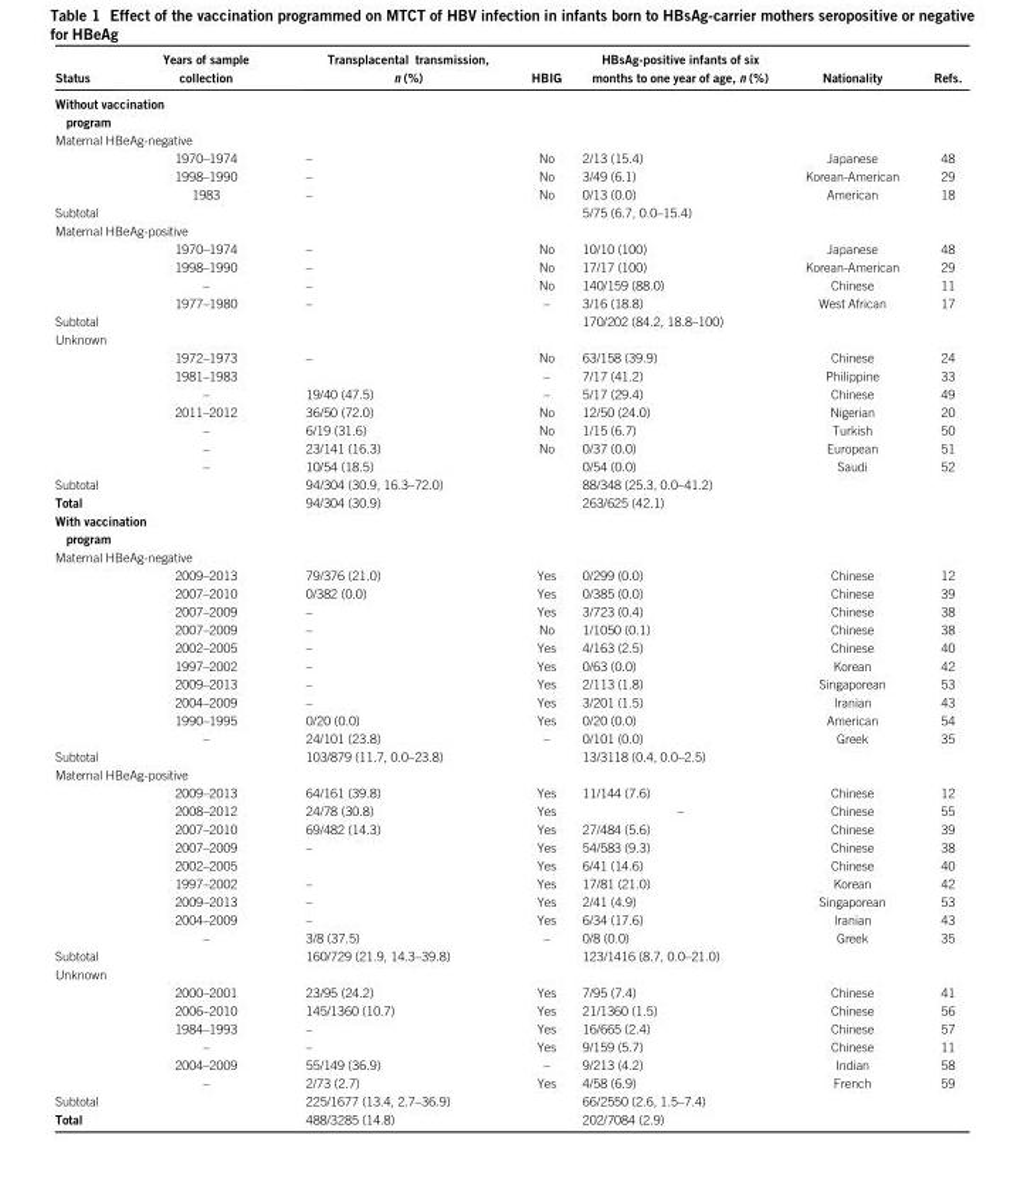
<table><tbody><tr><td>Status</td><td>Years of sample collection</td><td>Transplacental transmission, n (%)</td><td>HBIG</td><td>HBsAg-positive infants of six months to one year of age, n (%)</td><td>Nationality</td><td>Refs.</td></tr><tr><td colspan="7">Without vaccination program</td></tr><tr><td colspan="7">Maternal HBeAg-negative</td></tr><tr><td></td><td>1970–1974</td><td>–</td><td>No</td><td>2/13 (15.4)</td><td>Japanese</td><td><sup>48</sup></td></tr><tr><td></td><td>1998–1990</td><td>–</td><td>No</td><td>3/49 (6.1)</td><td>Korean-American</td><td><sup>29</sup></td></tr><tr><td></td><td>1983</td><td>–</td><td>No</td><td>0/13 (0.0)</td><td>American</td><td><sup>18</sup></td></tr><tr><td>Subtotal</td><td></td><td></td><td></td><td>5/75 (6.7, 0.0–15.4)</td><td></td><td></td></tr><tr><td colspan="7">Maternal HBeAg-positive</td></tr><tr><td></td><td>1970–1974</td><td>–</td><td>No</td><td>10/10 (100)</td><td>Japanese</td><td><sup>48</sup></td></tr><tr><td></td><td>1998–1990</td><td>–</td><td>No</td><td>17/17 (100)</td><td>Korean-American</td><td><sup>29</sup></td></tr><tr><td></td><td>–</td><td>–</td><td>No</td><td>140/159 (88.0)</td><td>Chinese</td><td><sup>11</sup></td></tr><tr><td></td><td>1977–1980</td><td>–</td><td>–</td><td>3/16 (18.8)</td><td>West African</td><td><sup>17</sup></td></tr><tr><td>Subtotal</td><td></td><td></td><td></td><td>170/202 (84.2, 18.8–100)</td><td></td><td></td></tr><tr><td colspan="7">Unknown</td></tr><tr><td></td><td>1972–1973</td><td>–</td><td>No</td><td>63/158 (39.9)</td><td>Chinese</td><td><sup>24</sup></td></tr><tr><td></td><td>1981–1983</td><td></td><td>–</td><td>7/17 (41.2)</td><td>Philippine</td><td><sup>33</sup></td></tr><tr><td></td><td>–</td><td>19/40 (47.5)</td><td>–</td><td>5/17 (29.4)</td><td>Chinese</td><td><sup>49</sup></td></tr><tr><td></td><td>2011–2012</td><td>36/50 (72.0)</td><td>No</td><td>12/50 (24.0)</td><td>Nigerian</td><td><sup>20</sup></td></tr><tr><td></td><td>–</td><td>6/19 (31.6)</td><td>No</td><td>1/15 (6.7)</td><td>Turkish</td><td><sup>50</sup></td></tr><tr><td></td><td>–</td><td>23/141 (16.3)</td><td>No</td><td>0/37 (0.0)</td><td>European</td><td><sup>51</sup></td></tr><tr><td></td><td>–</td><td>10/54 (18.5)</td><td></td><td>0/54 (0.0)</td><td>Saudi</td><td><sup>52</sup></td></tr><tr><td>Subtotal</td><td></td><td>94/304 (30.9, 16.3–72.0)</td><td></td><td>88/348 (25.3, 0.0–41.2)</td><td></td><td></td></tr><tr><td>Total</td><td></td><td>94/304 (30.9)</td><td></td><td>263/625 (42.1)</td><td></td><td></td></tr><tr><td colspan="7">With vaccination program</td></tr><tr><td colspan="7">Maternal HBeAg-negative</td></tr><tr><td></td><td>2009–2013</td><td>79/376 (21.0)</td><td>Yes</td><td>0/299 (0.0)</td><td>Chinese</td><td><sup>12</sup></td></tr><tr><td></td><td>2007–2010</td><td>0/382 (0.0)</td><td>Yes</td><td>0/385 (0.0)</td><td>Chinese</td><td><sup>39</sup></td></tr><tr><td></td><td>2007–2009</td><td>–</td><td>Yes</td><td>3/723 (0.4)</td><td>Chinese</td><td><sup>38</sup></td></tr><tr><td></td><td>2007–2009</td><td>–</td><td>No</td><td>1/1050 (0.1)</td><td>Chinese</td><td><sup>38</sup></td></tr><tr><td></td><td>2002–2005</td><td>–</td><td>Yes</td><td>4/163 (2.5)</td><td>Chinese</td><td><sup>40</sup></td></tr><tr><td></td><td>1997–2002</td><td>–</td><td>Yes</td><td>0/63 (0.0)</td><td>Korean</td><td><sup>42</sup></td></tr><tr><td></td><td>2009–2013</td><td>–</td><td>Yes</td><td>2/113 (1.8)</td><td>Singaporean</td><td><sup>53</sup></td></tr><tr><td></td><td>2004–2009</td><td>–</td><td>Yes</td><td>3/201 (1.5)</td><td>Iranian</td><td><sup>43</sup></td></tr><tr><td></td><td>1990–1995</td><td>0/20 (0.0)</td><td>Yes</td><td>0/20 (0.0)</td><td>American</td><td><sup>54</sup></td></tr><tr><td></td><td>–</td><td>24/101 (23.8)</td><td>–</td><td>0/101 (0.0)</td><td>Greek</td><td><sup>35</sup></td></tr><tr><td>Subtotal</td><td></td><td>103/879 (11.7, 0.0–23.8)</td><td></td><td>13/3118 (0.4, 0.0–2.5)</td><td></td><td></td></tr><tr><td colspan="7">Maternal HBeAg-positive</td></tr><tr><td></td><td>2009–2013</td><td>64/161 (39.8)</td><td>Yes</td><td>11/144 (7.6)</td><td>Chinese</td><td><sup>12</sup></td></tr><tr><td></td><td>2008–2012</td><td>24/78 (30.8)</td><td>Yes</td><td>–</td><td>Chinese</td><td><sup>55</sup></td></tr><tr><td></td><td>2007–2010</td><td>69/482 (14.3)</td><td>Yes</td><td>27/484 (5.6)</td><td>Chinese</td><td><sup>39</sup></td></tr><tr><td></td><td>2007–2009</td><td>–</td><td>Yes</td><td>54/583 (9.3)</td><td>Chinese</td><td><sup>38</sup></td></tr><tr><td></td><td>2002–2005</td><td></td><td>Yes</td><td>6/41 (14.6)</td><td>Chinese</td><td><sup>40</sup></td></tr><tr><td></td><td>1997–2002</td><td>–</td><td>Yes</td><td>17/81 (21.0)</td><td>Korean</td><td><sup>42</sup></td></tr><tr><td></td><td>2009–2013</td><td>–</td><td>Yes</td><td>2/41 (4.9)</td><td>Singaporean</td><td><sup>53</sup></td></tr><tr><td></td><td>2004–2009</td><td>–</td><td>Yes</td><td>6/34 (17.6)</td><td>Iranian</td><td><sup>43</sup></td></tr><tr><td></td><td>–</td><td>3/8 (37.5)</td><td>–</td><td>0/8 (0.0)</td><td>Greek</td><td><sup>35</sup></td></tr><tr><td>Subtotal</td><td></td><td>160/729 (21.9, 14.3–39.8)</td><td></td><td>123/1416 (8.7, 0.0–21.0)</td><td></td><td></td></tr><tr><td colspan="7">Unknown</td></tr><tr><td></td><td>2000–2001</td><td>23/95 (24.2)</td><td>Yes</td><td>7/95 (7.4)</td><td>Chinese</td><td><sup>41</sup></td></tr><tr><td></td><td>2006–2010</td><td>145/1360 (10.7)</td><td>Yes</td><td>21/1360 (1.5)</td><td>Chinese</td><td><sup>56</sup></td></tr><tr><td></td><td>1984–1993</td><td>–</td><td>Yes</td><td>16/665 (2.4)</td><td>Chinese</td><td><sup>57</sup></td></tr><tr><td></td><td>–</td><td>–</td><td>Yes</td><td>9/159 (5.7)</td><td>Chinese</td><td><sup>11</sup></td></tr><tr><td></td><td>2004–2009</td><td>55/149 (36.9)</td><td>–</td><td>9/213 (4.2)</td><td>Indian</td><td><sup>58</sup></td></tr><tr><td></td><td>–</td><td>2/73 (2.7)</td><td>Yes</td><td>4/58 (6.9)</td><td>French</td><td><sup>59</sup></td></tr><tr><td>Subtotal</td><td></td><td>225/1677 (13.4, 2.7–36.9)</td><td></td><td>66/2550 (2.6, 1.5–7.4)</td><td></td><td></td></tr><tr><td>Total</td><td></td><td>488/3285 (14.8)</td><td></td><td>202/7084 (2.9)</td><td></td><td></td></tr></tbody></table>